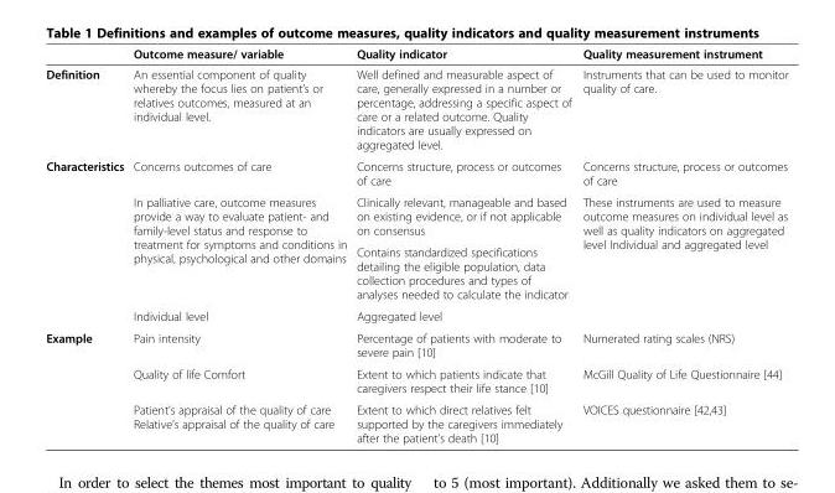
<table><thead><tr><td></td><td>Outcome measure/ variable</td><td>Quality indicator</td><td>Quality measurement instrument</td></tr></thead><tbody><tr><td>Definition</td><td>An essential component of quality whereby the focus lies on patient’s or relatives outcomes, measured at an individual level.</td><td>Well defined and measurable aspect of care, generally expressed in a number or percentage, addressing a specific aspect of care or a related outcome. Quality indicators are usually expressed on aggregated level.</td><td>Instruments that can be used to monitor quality of care.</td></tr><tr><td rowspan="4">Characteristics</td><td>Concerns outcomes of care</td><td>Concerns structure, process or outcomes of care</td><td>Concerns structure, process or outcomes of care</td></tr><tr><td rowspan="2">In palliative care, outcome measures provide a way to evaluate patient- and family-level status and response to treatment for symptoms and conditions in physical, psychological and other domains</td><td>Clinically relevant, manageable and based on existing evidence, or if not applicable on consensus</td><td rowspan="3">These instruments are used to measure outcome measures on individual level as well as quality indicators on aggregated level Individual and aggregated level</td></tr><tr><td>Contains standardized specifications detailing the eligible population, data collection procedures and types of analyses needed to calculate the indicator</td></tr><tr><td>Individual level</td><td>Aggregated level</td></tr><tr><td rowspan="3">Example</td><td>Pain intensity</td><td>Percentage of patients with moderate to severe pain [10]</td><td>Numerated rating scales (NRS)</td></tr><tr><td>Quality of life Comfort</td><td>Extent to which patients indicate that caregivers respect their life stance [10]</td><td>McGill Quality of Life Questionnaire [44]</td></tr><tr><td>Patient’s appraisal of the quality of care Relative’s appraisal of the quality of care</td><td>Extent to which direct relatives felt supported by the caregivers immediately after the patient’s death [10]</td><td>VOICES questionnaire [42,43]</td></tr></tbody></table>